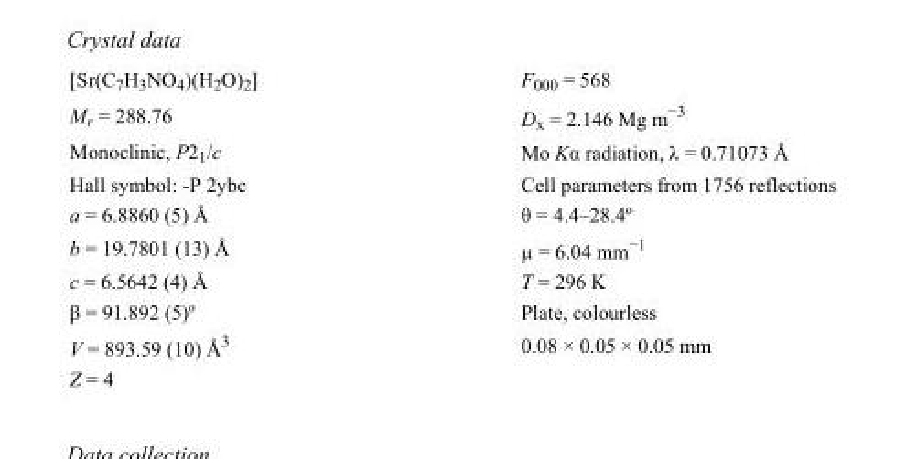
<table><tbody><tr><td>[Sr(C<sub>7</sub>H<sub>3</sub>NO<sub>4</sub>)(H<sub>2</sub>O)<sub>2</sub>]</td><td>F000 = 568</td></tr><tr><td>M<sub>r</sub> = 288.76</td><td>D<sub>x</sub> = 2.146 Mg m<sup>−3</sup></td></tr><tr><td>Monoclinic, P2<sub>1</sub>/c</td><td>Mo Kα radiation, λ = 0.71073 Å</td></tr><tr><td>Hall symbol: -P 2ybc</td><td>Cell parameters from 1756 reflections</td></tr><tr><td>a = 6.8860 (5) Å</td><td>θ = 4.4–28.4º</td></tr><tr><td>b = 19.7801 (13) Å</td><td>µ = 6.04 mm<sup>−1</sup></td></tr><tr><td>c = 6.5642 (4) Å</td><td>T = 296 K</td></tr><tr><td>β = 91.892 (5)º</td><td>Plate, colourless</td></tr><tr><td>V = 893.59 (10) Å<sup>3</sup></td><td>0.08 × 0.05 × 0.05 mm</td></tr><tr><td>Z = 4</td><td></td></tr></tbody></table>